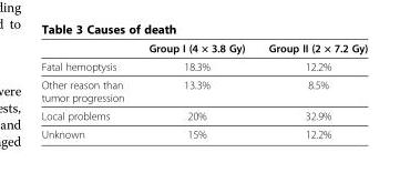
<table><thead><tr><td></td><td>Group I (4 × 3.8 Gy)</td><td>Group II (2 × 7.2 Gy)</td></tr></thead><tbody><tr><td>Fatal hemoptysis</td><td>18.3%</td><td>12.2%</td></tr><tr><td>Other reason than tumor progression</td><td>13.3%</td><td>8.5%</td></tr><tr><td>Local problems</td><td>20%</td><td>32.9%</td></tr><tr><td>Unknown</td><td>15%</td><td>12.2%</td></tr></tbody></table>